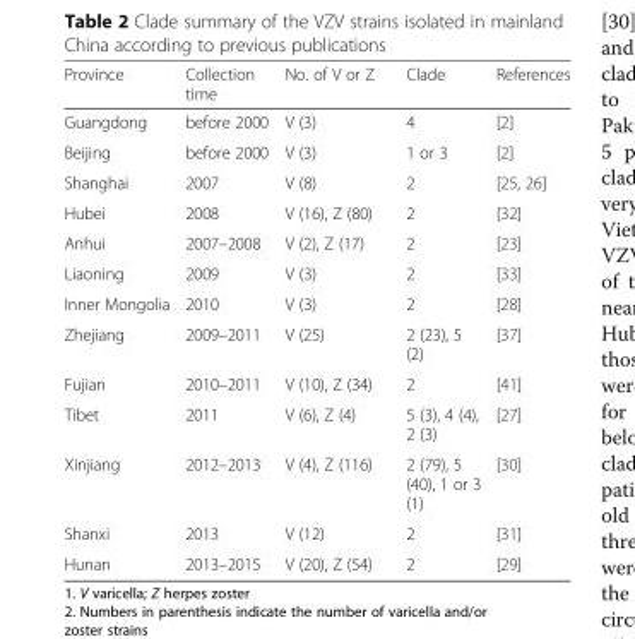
<table><thead><tr><td>Province</td><td>Collection time</td><td>No. of V or Z</td><td>Clade</td><td>References</td></tr></thead><tbody><tr><td>Guangdong</td><td>before 2000</td><td>V (3)</td><td>4</td><td>[2]</td></tr><tr><td>Beijing</td><td>before 2000</td><td>V (3)</td><td>1 or 3</td><td>[2]</td></tr><tr><td>Shanghai</td><td>2007</td><td>V (8)</td><td>2</td><td>[25, 26]</td></tr><tr><td>Hubei</td><td>2008</td><td>V (16), Z (80)</td><td>2</td><td>[32]</td></tr><tr><td>Anhui</td><td>2007–2008</td><td>V (2), Z (17)</td><td>2</td><td>[23]</td></tr><tr><td>Liaoning</td><td>2009</td><td>V (3)</td><td>2</td><td>[33]</td></tr><tr><td>Inner Mongolia</td><td>2010</td><td>V (3)</td><td>2</td><td>[28]</td></tr><tr><td>Zhejiang</td><td>2009–2011</td><td>V (25)</td><td>2 (23), 5 (2)</td><td>[37]</td></tr><tr><td>Fujian</td><td>2010–2011</td><td>V (10), Z (34)</td><td>2</td><td>[41]</td></tr><tr><td>Tibet</td><td>2011</td><td>V (6), Z (4)</td><td>5 (3), 4 (4), 2 (3)</td><td>[27]</td></tr><tr><td>Xinjiang</td><td>2012–2013</td><td>V (4), Z (116)</td><td>2 (79), 5 (40), 1 or 3 (1)</td><td>[30]</td></tr><tr><td>Shanxi</td><td>2013</td><td>V (12)</td><td>2</td><td>[31]</td></tr><tr><td>Hunan</td><td>2013–2015</td><td>V (20), Z (54)</td><td>2</td><td>[29]</td></tr></tbody></table>